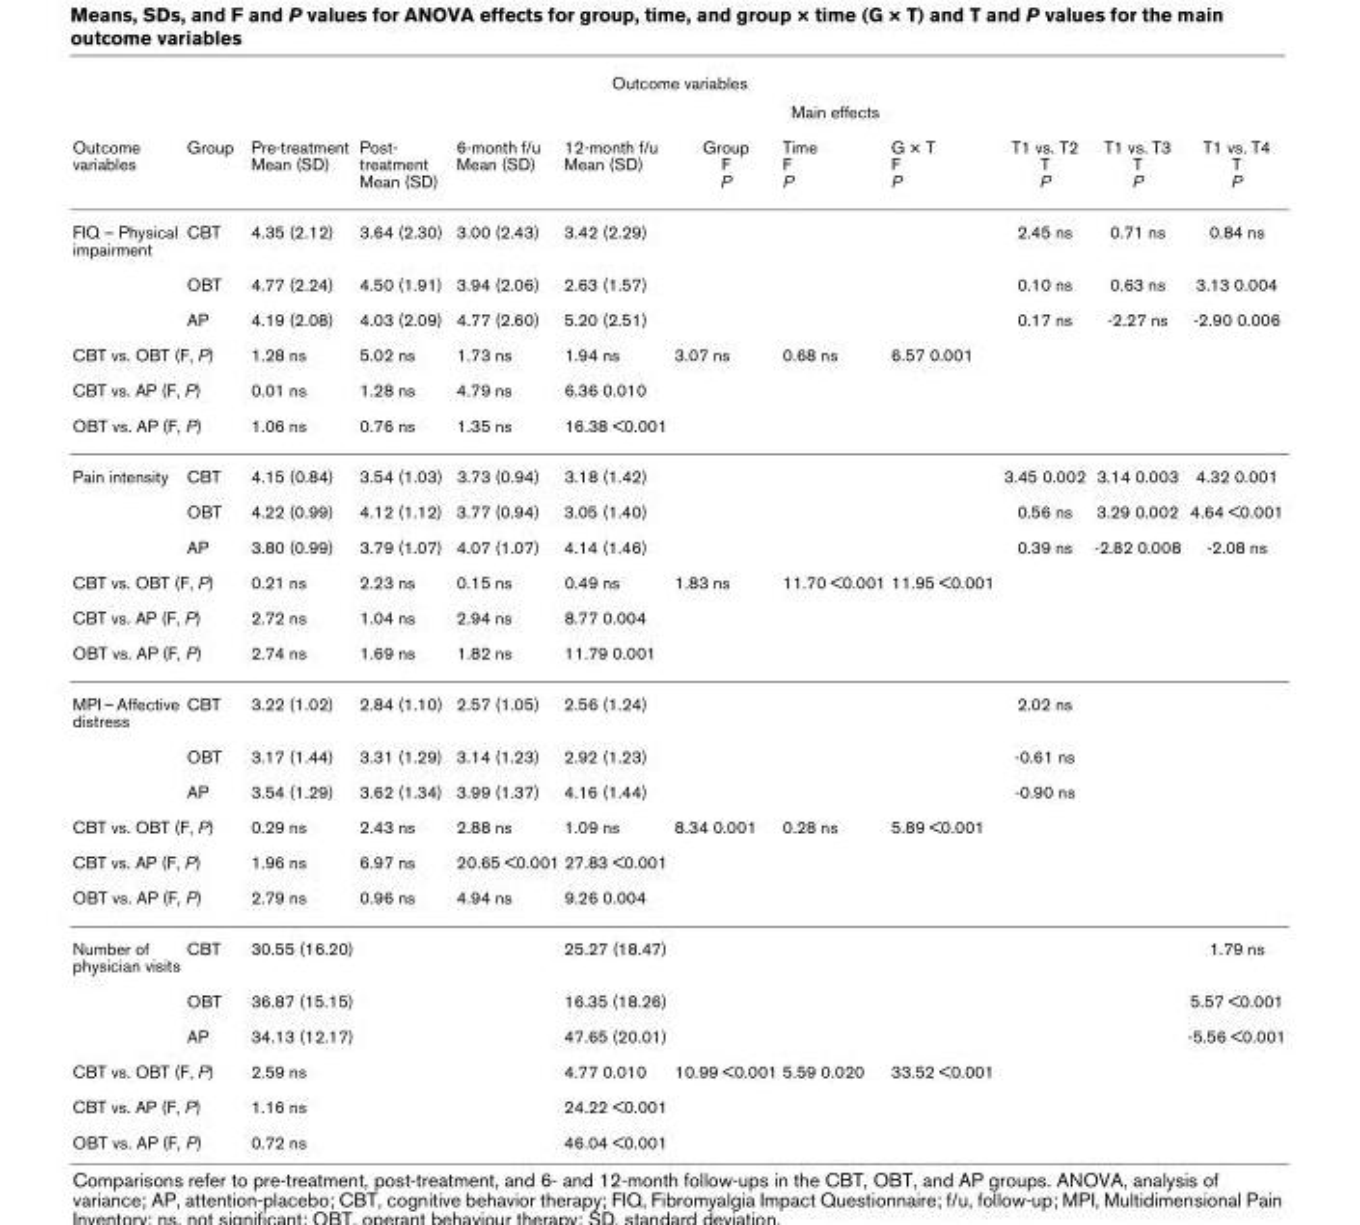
<table><thead><tr><td colspan="12">Outcome variables</td></tr><tr><td rowspan="2">Outcome variables</td><td rowspan="2">Group</td><td rowspan="2">Pre-treatment Mean (SD)</td><td rowspan="2">Post- treatment Mean (SD)</td><td rowspan="2">6-month f/u Mean (SD)</td><td rowspan="2">12-month f/u Mean (SD)</td><td colspan="3">Main effects</td><td rowspan="2">T1 vs. T2 T P</td><td rowspan="2">T1 vs. T3 T P</td><td rowspan="2">T1 vs. T4 T P</td></tr><tr><td>Group F P</td><td>Time F P</td><td>G × T F P</td></tr></thead><tbody><tr><td rowspan="3">FIQ – Physical impairment</td><td>CBT</td><td>4.35 (2.12)</td><td>3.64 (2.30)</td><td>3.00 (2.43)</td><td>3.42 (2.29)</td><td></td><td></td><td></td><td>2.45 ns</td><td>0.71 ns</td><td>0.84 ns</td></tr><tr><td>OBT</td><td>4.77 (2.24)</td><td>4.50 (1.91)</td><td>3.94 (2.06)</td><td>2.63 (1.57)</td><td></td><td></td><td></td><td>0.10 ns</td><td>0.63 ns</td><td>3.13 0.004</td></tr><tr><td>AP</td><td>4.19 (2.08)</td><td>4.03 (2.09)</td><td>4.77 (2.60)</td><td>5.20 (2.51)</td><td></td><td></td><td></td><td>0.17 ns</td><td>-2.27 ns</td><td>-2.90 0.006</td></tr><tr><td colspan="2">CBT vs. OBT (F, P)</td><td>1.28 ns</td><td>5.02 ns</td><td>1.73 ns</td><td>1.94 ns</td><td>3.07 ns</td><td>0.68 ns</td><td>6.57 0.001</td><td></td><td></td><td></td></tr><tr><td colspan="2">CBT vs. AP (F, P)</td><td>0.01 ns</td><td>1.28 ns</td><td>4.79 ns</td><td>6.36 0.010</td><td></td><td></td><td></td><td></td><td></td><td></td></tr><tr><td colspan="2">OBT vs. AP (F, P)</td><td>1.06 ns</td><td>0.76 ns</td><td>1.35 ns</td><td>16.38 &lt;0.001</td><td></td><td></td><td></td><td></td><td></td><td></td></tr><tr><td rowspan="3">Pain intensity</td><td>CBT</td><td>4.15 (0.84)</td><td>3.54 (1.03)</td><td>3.73 (0.94)</td><td>3.18 (1.42)</td><td></td><td></td><td></td><td>3.45 0.002</td><td>3.14 0.003</td><td>4.32 0.001</td></tr><tr><td>OBT</td><td>4.22 (0.99)</td><td>4.12 (1.12)</td><td>3.77 (0.94)</td><td>3.05 (1.40)</td><td></td><td></td><td></td><td>0.56 ns</td><td>3.29 0.002</td><td>4.64 &lt;0.001</td></tr><tr><td>AP</td><td>3.80 (0.99)</td><td>3.79 (1.07)</td><td>4.07 (1.07)</td><td>4.14 (1.46)</td><td></td><td></td><td></td><td>0.39 ns</td><td>-2.82 0.008</td><td>-2.08 ns</td></tr><tr><td colspan="2">CBT vs. OBT (F, P)</td><td>0.21 ns</td><td>2.23 ns</td><td>0.15 ns</td><td>0.49 ns</td><td>1.83 ns</td><td>11.70 &lt;0.001</td><td>11.95 &lt;0.001</td><td></td><td></td><td></td></tr><tr><td colspan="2">CBT vs. AP (F, P)</td><td>2.72 ns</td><td>1.04 ns</td><td>2.94 ns</td><td>8.77 0.004</td><td></td><td></td><td></td><td></td><td></td><td></td></tr><tr><td colspan="2">OBT vs. AP (F, P)</td><td>2.74 ns</td><td>1.69 ns</td><td>1.82 ns</td><td>11.79 0.001</td><td></td><td></td><td></td><td></td><td></td><td></td></tr><tr><td rowspan="3">MPI – Affective distress</td><td>CBT</td><td>3.22 (1.02)</td><td>2.84 (1.10)</td><td>2.57 (1.05)</td><td>2.56 (1.24)</td><td></td><td></td><td></td><td>2.02 ns</td><td></td><td></td></tr><tr><td>OBT</td><td>3.17 (1.44)</td><td>3.31 (1.29)</td><td>3.14 (1.23)</td><td>2.92 (1.23)</td><td></td><td></td><td></td><td>-0.61 ns</td><td></td><td></td></tr><tr><td>AP</td><td>3.54 (1.29)</td><td>3.62 (1.34)</td><td>3.99 (1.37)</td><td>4.16 (1.44)</td><td></td><td></td><td></td><td>-0.90 ns</td><td></td><td></td></tr><tr><td colspan="2">CBT vs. OBT (F, P)</td><td>0.29 ns</td><td>2.43 ns</td><td>2.88 ns</td><td>1.09 ns</td><td>8.34 0.001</td><td>0.28 ns</td><td>5.89 &lt;0.001</td><td></td><td></td><td></td></tr><tr><td colspan="2">CBT vs. AP (F, P)</td><td>1.96 ns</td><td>6.97 ns</td><td>20.65 &lt;0.001</td><td>27.83 &lt;0.001</td><td></td><td></td><td></td><td></td><td></td><td></td></tr><tr><td colspan="2">OBT vs. AP (F, P)</td><td>2.79 ns</td><td>0.96 ns</td><td>4.94 ns</td><td>9.26 0.004</td><td></td><td></td><td></td><td></td><td></td><td></td></tr><tr><td rowspan="3">Number of physician visits</td><td>CBT</td><td>30.55 (16.20)</td><td></td><td></td><td>25.27 (18.47)</td><td></td><td></td><td></td><td></td><td></td><td>1.79 ns</td></tr><tr><td>OBT</td><td>36.87 (15.15)</td><td></td><td></td><td>16.35 (18.26)</td><td></td><td></td><td></td><td></td><td></td><td>5.57 &lt;0.001</td></tr><tr><td>AP</td><td>34.13 (12.17)</td><td></td><td></td><td>47.65 (20.01)</td><td></td><td></td><td></td><td></td><td></td><td>-5.56 &lt;0.001</td></tr><tr><td colspan="2">CBT vs. OBT (F, P)</td><td>2.59 ns</td><td></td><td></td><td>4.77 0.010</td><td>10.99 &lt;0.001</td><td>5.59 0.020</td><td>33.52 &lt;0.001</td><td></td><td></td><td></td></tr><tr><td colspan="2">CBT vs. AP (F, P)</td><td>1.16 ns</td><td></td><td></td><td>24.22 &lt;0.001</td><td></td><td></td><td></td><td></td><td></td><td></td></tr><tr><td colspan="2">OBT vs. AP (F, P)</td><td>0.72 ns</td><td></td><td></td><td>46.04 &lt;0.001</td><td></td><td></td><td></td><td></td><td></td><td></td></tr></tbody></table>